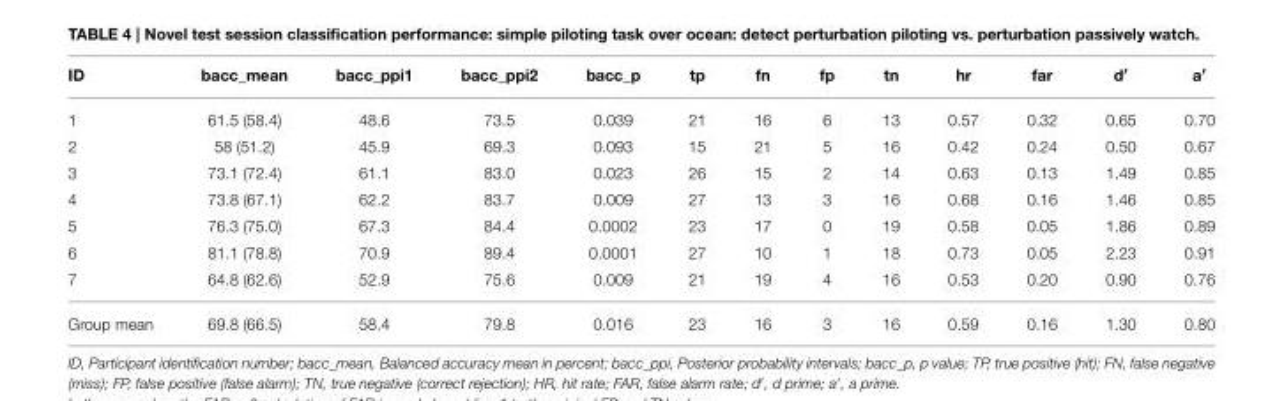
<table><thead><tr><td>ID</td><td>bacc_mean</td><td>bacc_ppi1</td><td>bacc_ppi2</td><td>bacc_p</td><td>tp</td><td>fn</td><td>fp</td><td>tn</td><td>hr</td><td>far</td><td>d′</td><td>a′</td></tr></thead><tbody><tr><td>1</td><td>61.5 (58.4)</td><td>48.6</td><td>73.5</td><td>0.039</td><td>21</td><td>16</td><td>6</td><td>13</td><td>0.57</td><td>0.32</td><td>0.65</td><td>0.70</td></tr><tr><td>2</td><td>58 (51.2)</td><td>45.9</td><td>69.3</td><td>0.093</td><td>15</td><td>21</td><td>5</td><td>16</td><td>0.42</td><td>0.24</td><td>0.50</td><td>0.67</td></tr><tr><td>3</td><td>73.1 (72.4)</td><td>61.1</td><td>83.0</td><td>0.023</td><td>26</td><td>15</td><td>2</td><td>14</td><td>0.63</td><td>0.13</td><td>1.49</td><td>0.85</td></tr><tr><td>4</td><td>73.8 (67.1)</td><td>62.2</td><td>83.7</td><td>0.009</td><td>27</td><td>13</td><td>3</td><td>16</td><td>0.68</td><td>0.16</td><td>1.46</td><td>0.85</td></tr><tr><td>5</td><td>76.3 (75.0)</td><td>67.3</td><td>84.4</td><td>0.0002</td><td>23</td><td>17</td><td>0</td><td>19</td><td>0.58</td><td>0.05</td><td>1.86</td><td>0.89</td></tr><tr><td>6</td><td>81.1 (78.8)</td><td>70.9</td><td>89.4</td><td>0.0001</td><td>27</td><td>10</td><td>1</td><td>18</td><td>0.73</td><td>0.05</td><td>2.23</td><td>0.91</td></tr><tr><td>7</td><td>64.8 (62.6)</td><td>52.9</td><td>75.6</td><td>0.009</td><td>21</td><td>19</td><td>4</td><td>16</td><td>0.53</td><td>0.20</td><td>0.90</td><td>0.76</td></tr><tr><td>Group mean</td><td>69.8 (66.5)</td><td>58.4</td><td>79.8</td><td>0.016</td><td>23</td><td>16</td><td>3</td><td>16</td><td>0.59</td><td>0.16</td><td>1.30</td><td>0.80</td></tr></tbody></table>